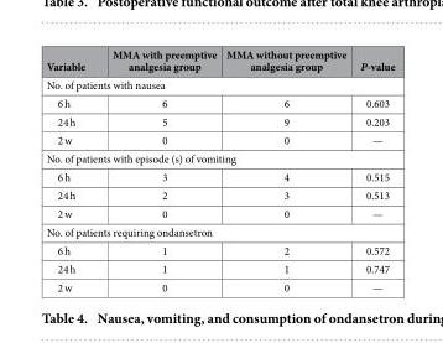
<table><thead><tr><td>Variable</td><td>MMA with preemptive analgesia group</td><td>MMA without preemptive analgesia group</td><td>P-value</td></tr></thead><tbody><tr><td colspan="4">No. of patients with nausea</td></tr><tr><td>6 h</td><td>6</td><td>6</td><td>0.603</td></tr><tr><td>24 h</td><td>5</td><td>9</td><td>0.203</td></tr><tr><td>2 w</td><td>0</td><td>0</td><td>—</td></tr><tr><td colspan="4">No. of patients with episode (s) of vomiting</td></tr><tr><td>6 h</td><td>3</td><td>4</td><td>0.515</td></tr><tr><td>24 h</td><td>2</td><td>3</td><td>0.513</td></tr><tr><td>2 w</td><td>0</td><td>0</td><td>—</td></tr><tr><td colspan="4">No. of patients requiring ondansetron</td></tr><tr><td>6 h</td><td>1</td><td>2</td><td>0.572</td></tr><tr><td>24 h</td><td>1</td><td>1</td><td>0.747</td></tr><tr><td>2 w</td><td>0</td><td>0</td><td>—</td></tr></tbody></table>